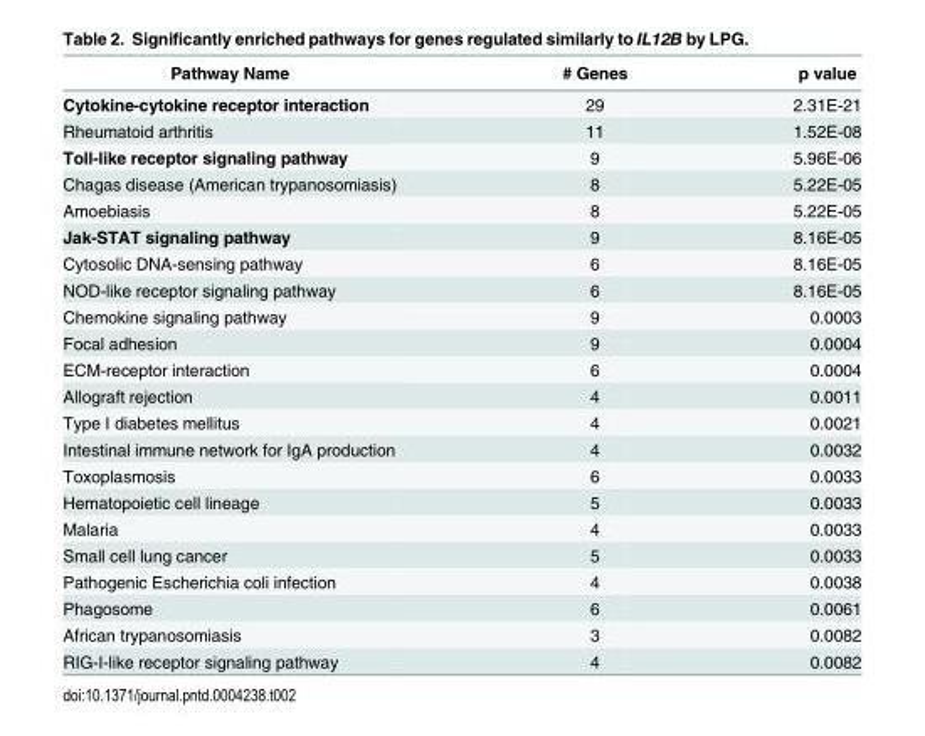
<table><thead><tr><td>Pathway Name</td><td># Genes</td><td>p value</td></tr></thead><tbody><tr><td>Cytokine-cytokine receptor interaction</td><td>29</td><td>2.31E-21</td></tr><tr><td>Rheumatoid arthritis</td><td>11</td><td>1.52E-08</td></tr><tr><td>Toll-like receptor signaling pathway</td><td>9</td><td>5.96E-06</td></tr><tr><td>Chagas disease (American trypanosomiasis)</td><td>8</td><td>5.22E-05</td></tr><tr><td>Amoebiasis</td><td>8</td><td>5.22E-05</td></tr><tr><td>Jak-STAT signaling pathway</td><td>9</td><td>8.16E-05</td></tr><tr><td>Cytosolic DNA-sensing pathway</td><td>6</td><td>8.16E-05</td></tr><tr><td>NOD-like receptor signaling pathway</td><td>6</td><td>8.16E-05</td></tr><tr><td>Chemokine signaling pathway</td><td>9</td><td>0.0003</td></tr><tr><td>Focal adhesion</td><td>9</td><td>0.0004</td></tr><tr><td>ECM-receptor interaction</td><td>6</td><td>0.0004</td></tr><tr><td>Allograft rejection</td><td>4</td><td>0.0011</td></tr><tr><td>Type I diabetes mellitus</td><td>4</td><td>0.0021</td></tr><tr><td>Intestinal immune network for IgA production</td><td>4</td><td>0.0032</td></tr><tr><td>Toxoplasmosis</td><td>6</td><td>0.0033</td></tr><tr><td>Hematopoietic cell lineage</td><td>5</td><td>0.0033</td></tr><tr><td>Malaria</td><td>4</td><td>0.0033</td></tr><tr><td>Small cell lung cancer</td><td>5</td><td>0.0033</td></tr><tr><td>Pathogenic Escherichia coli infection</td><td>4</td><td>0.0038</td></tr><tr><td>Phagosome</td><td>6</td><td>0.0061</td></tr><tr><td>African trypanosomiasis</td><td>3</td><td>0.0082</td></tr><tr><td>RIG-I-like receptor signaling pathway</td><td>4</td><td>0.0082</td></tr></tbody></table>